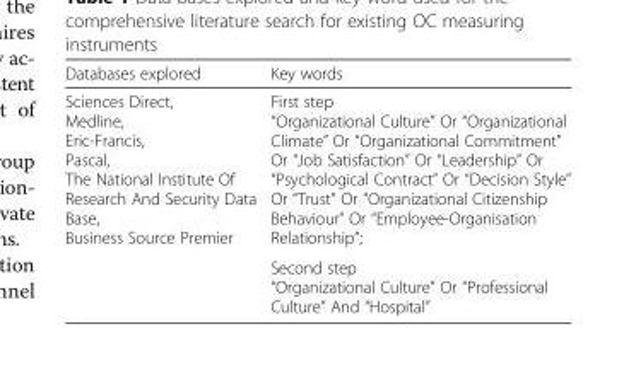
<table><thead><tr><td>Databases explored</td><td>Key words</td></tr></thead><tbody><tr><td rowspan="2">Sciences Direct, Medline, Eric-Francis, Pascal, The National Institute Of Research And Security Data Base, Business Source Premier</td><td>First step “Organizational Culture” Or “Organizational Climate” Or “Organizational Commitment” Or “Job Satisfaction” Or “Leadership” Or “Psychological Contract” Or “Decision Style” Or “Trust” Or “Organizational Citizenship Behaviour” Or “Employee-Organisation Relationship”;</td></tr><tr><td>Second step “Organizational Culture” Or “Professional Culture” And “Hospital”</td></tr></tbody></table>